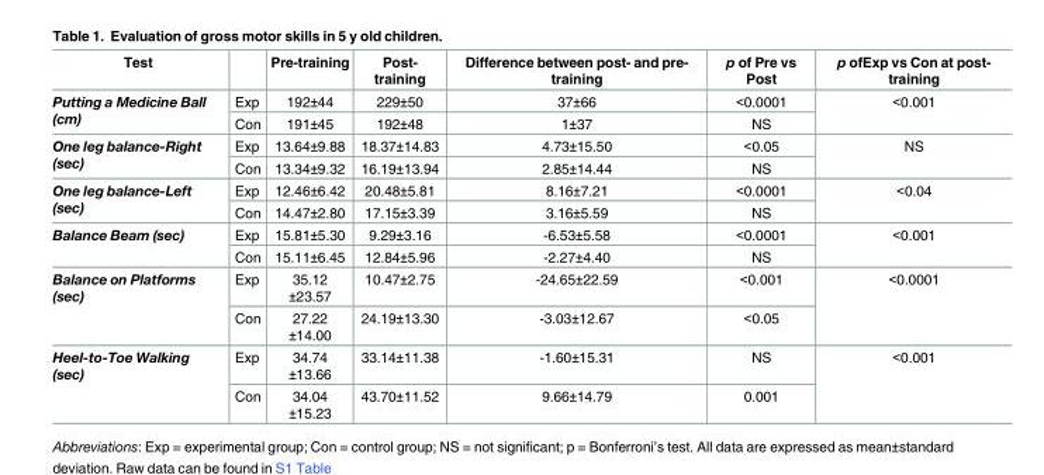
<table><thead><tr><td>Test</td><td></td><td>Pre-training</td><td>Post- training</td><td>Difference between post- and pre- training</td><td>p of Pre vs Post</td><td>p ofExp vs Con at post- training</td></tr></thead><tbody><tr><td rowspan="2">Putting a Medicine Ball (cm)</td><td>Exp</td><td>192±44</td><td>229±50</td><td>37±66</td><td>&lt;0.0001</td><td rowspan="2">&lt;0.001</td></tr><tr><td>Con</td><td>191±45</td><td>192±48</td><td>1±37</td><td>NS</td></tr><tr><td rowspan="2">One leg balance-Right (sec)</td><td>Exp</td><td>13.64±9.88</td><td>18.37±14.83</td><td>4.73±15.50</td><td>&lt;0.05</td><td rowspan="2">NS</td></tr><tr><td>Con</td><td>13.34±9.32</td><td>16.19±13.94</td><td>2.85±14.44</td><td>NS</td></tr><tr><td rowspan="2">One leg balance-Left (sec)</td><td>Exp</td><td>12.46±6.42</td><td>20.48±5.81</td><td>8.16±7.21</td><td>&lt;0.0001</td><td rowspan="2">&lt;0.04</td></tr><tr><td>Con</td><td>14.47±2.80</td><td>17.15±3.39</td><td>3.16±5.59</td><td>NS</td></tr><tr><td rowspan="2">Balance Beam (sec)</td><td>Exp</td><td>15.81±5.30</td><td>9.29±3.16</td><td>-6.53±5.58</td><td>&lt;0.0001</td><td rowspan="2">&lt;0.001</td></tr><tr><td>Con</td><td>15.11±6.45</td><td>12.84±5.96</td><td>-2.27±4.40</td><td>NS</td></tr><tr><td rowspan="2">Balance on Platforms (sec)</td><td>Exp</td><td>35.12 ±23.57</td><td>10.47±2.75</td><td>-24.65±22.59</td><td>&lt;0.001</td><td rowspan="2">&lt;0.0001</td></tr><tr><td>Con</td><td>27.22 ±14.00</td><td>24.19±13.30</td><td>-3.03±12.67</td><td>&lt;0.05</td></tr><tr><td rowspan="2">Heel-to-Toe Walking (sec)</td><td>Exp</td><td>34.74 ±13.66</td><td>33.14±11.38</td><td>-1.60±15.31</td><td>NS</td><td rowspan="2">&lt;0.001</td></tr><tr><td>Con</td><td>34.04 ±15.23</td><td>43.70±11.52</td><td>9.66±14.79</td><td>0.001</td></tr></tbody></table>